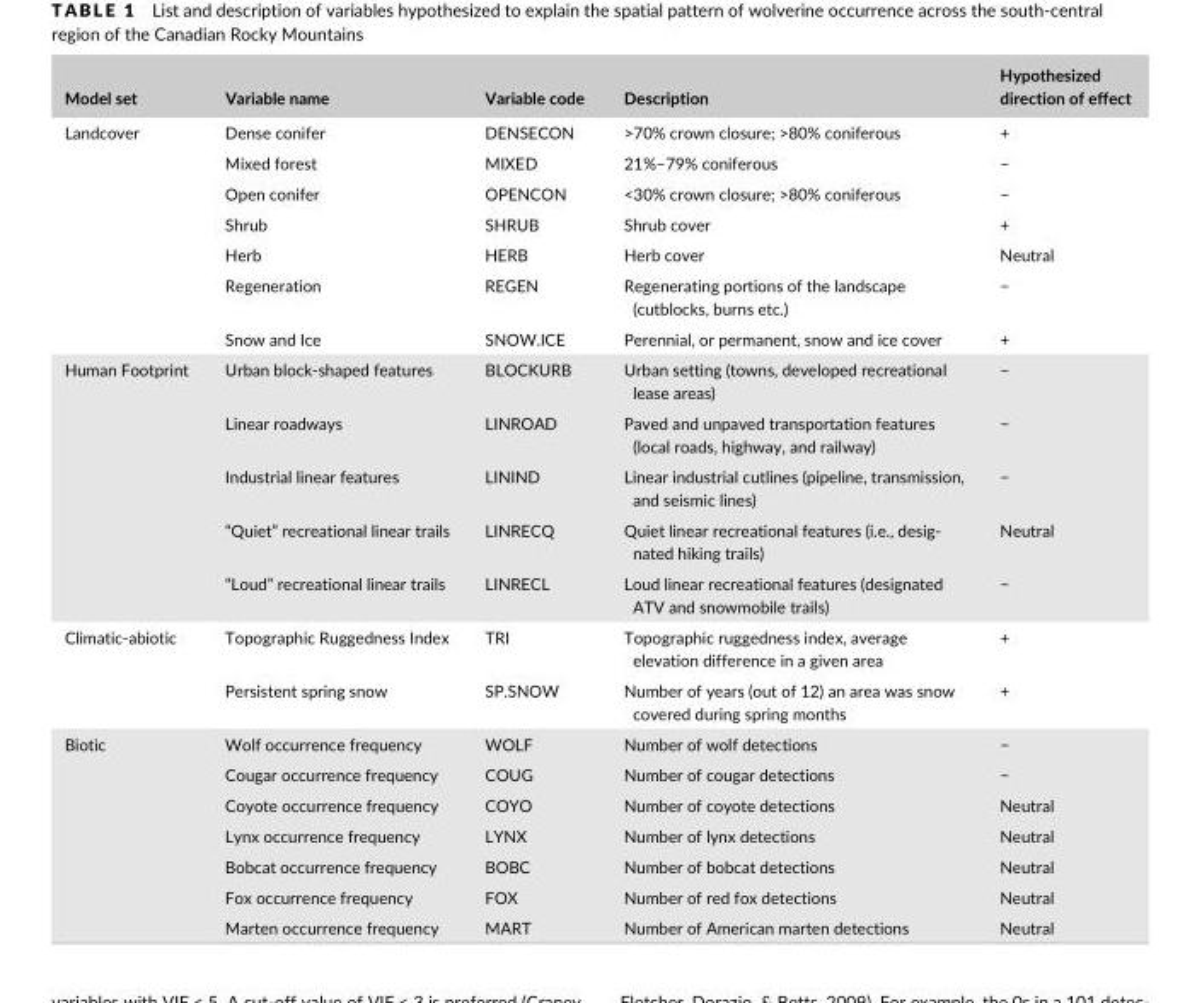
<table><thead><tr><td>Model set</td><td>Variable name</td><td>Variable code</td><td>Description</td><td>Hypothesized direction of effect</td></tr></thead><tbody><tr><td rowspan="7">Landcover</td><td>Dense conifer</td><td>DENSECON</td><td>&gt;70% crown closure; &gt;80% coniferous</td><td>+</td></tr><tr><td>Mixed forest</td><td>MIXED</td><td>21%–79% coniferous</td><td>−</td></tr><tr><td>Open conifer</td><td>OPENCON</td><td>&lt;30% crown closure; &gt;80% coniferous</td><td>−</td></tr><tr><td>Shrub</td><td>SHRUB</td><td>Shrub cover</td><td>+</td></tr><tr><td>Herb</td><td>HERB</td><td>Herb cover</td><td>Neutral</td></tr><tr><td>Regeneration</td><td>REGEN</td><td>Regenerating portions of the landscape (cutblocks, burns etc.)</td><td>−</td></tr><tr><td>Snow and Ice</td><td>SNOW.ICE</td><td>Perennial, or permanent, snow and ice cover</td><td>+</td></tr><tr><td rowspan="5">Human Footprint</td><td>Urban block- shaped features</td><td>BLOCKURB</td><td>Urban setting (towns, developed recreational lease areas)</td><td>−</td></tr><tr><td>Linear roadways</td><td>LINROAD</td><td>Paved and unpaved transportation features (local roads, highway, and railway)</td><td>−</td></tr><tr><td>Industrial linear features</td><td>LININD</td><td>Linear industrial cutlines (pipeline, transmission, and seismic lines)</td><td>−</td></tr><tr><td>“Quiet” recreational linear trails</td><td>LINRECQ</td><td>Quiet linear recreational features (i.e., desig- nated hiking trails)</td><td>Neutral</td></tr><tr><td>“Loud” recreational linear trails</td><td>LINRECL</td><td>Loud linear recreational features (designated ATV and snowmobile trails)</td><td>−</td></tr><tr><td rowspan="2">Climatic- abiotic</td><td>Topographic Ruggedness Index</td><td>TRI</td><td>Topographic ruggedness index, average elevation difference in a given area</td><td>+</td></tr><tr><td>Persistent spring snow</td><td>SP.SNOW</td><td>Number of years (out of 12) an area was snow covered during spring months</td><td>+</td></tr><tr><td rowspan="7">Biotic</td><td>Wolf occurrence frequency</td><td>WOLF</td><td>Number of wolf detections</td><td>−</td></tr><tr><td>Cougar occurrence frequency</td><td>COUG</td><td>Number of cougar detections</td><td>−</td></tr><tr><td>Coyote occurrence frequency</td><td>COYO</td><td>Number of coyote detections</td><td>Neutral</td></tr><tr><td>Lynx occurrence frequency</td><td>LYNX</td><td>Number of lynx detections</td><td>Neutral</td></tr><tr><td>Bobcat occurrence frequency</td><td>BOBC</td><td>Number of bobcat detections</td><td>Neutral</td></tr><tr><td>Fox occurrence frequency</td><td>FOX</td><td>Number of red fox detections</td><td>Neutral</td></tr><tr><td>Marten occurrence frequency</td><td>MART</td><td>Number of American marten detections</td><td>Neutral</td></tr></tbody></table>